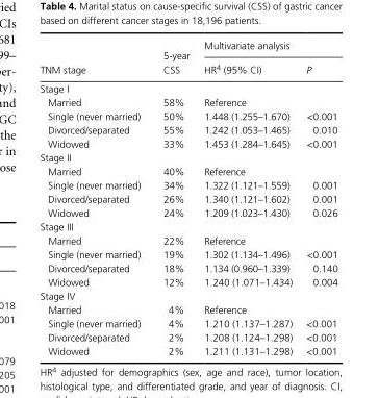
<table><thead><tr><td rowspan="2">TNM stage</td><td rowspan="2">5- year CSS</td><td colspan="2">Multivariate analysis</td></tr><tr><td>HR<sup>4</sup> (95% CI)</td><td>P</td></tr></thead><tbody><tr><td colspan="4">Stage I</td></tr><tr><td>Married</td><td>58%</td><td>Reference</td><td></td></tr><tr><td>Single (never married)</td><td>50%</td><td>1.448 (1.255–1.670)</td><td>&lt;0.001</td></tr><tr><td>Divorced/separated</td><td>55%</td><td>1.242 (1.053–1.465)</td><td>0.010</td></tr><tr><td>Widowed</td><td>33%</td><td>1.453 (1.284–1.645)</td><td>&lt;0.001</td></tr><tr><td colspan="4">Stage II</td></tr><tr><td>Married</td><td>40%</td><td>Reference</td><td></td></tr><tr><td>Single (never married)</td><td>34%</td><td>1.322 (1.121–1.559)</td><td>0.001</td></tr><tr><td>Divorced/separated</td><td>26%</td><td>1.340 (1.121–1.602)</td><td>0.001</td></tr><tr><td>Widowed</td><td>24%</td><td>1.209 (1.023–1.430)</td><td>0.026</td></tr><tr><td colspan="4">Stage III</td></tr><tr><td>Married</td><td>22%</td><td>Reference</td><td></td></tr><tr><td>Single (never married)</td><td>19%</td><td>1.302 (1.134–1.496)</td><td>&lt;0.001</td></tr><tr><td>Divorced/separated</td><td>18%</td><td>1.134 (0.960–1.339)</td><td>0.140</td></tr><tr><td>Widowed</td><td>12%</td><td>1.240 (1.071–1.434)</td><td>0.004</td></tr><tr><td colspan="4">Stage IV</td></tr><tr><td>Married</td><td>4%</td><td>Reference</td><td></td></tr><tr><td>Single (never married)</td><td>4%</td><td>1.210 (1.137–1.287)</td><td>&lt;0.001</td></tr><tr><td>Divorced/separated</td><td>2%</td><td>1.208 (1.124–1.298)</td><td>&lt;0.001</td></tr><tr><td>Widowed</td><td>2%</td><td>1.211 (1.131–1.298)</td><td>&lt;0.001</td></tr></tbody></table>